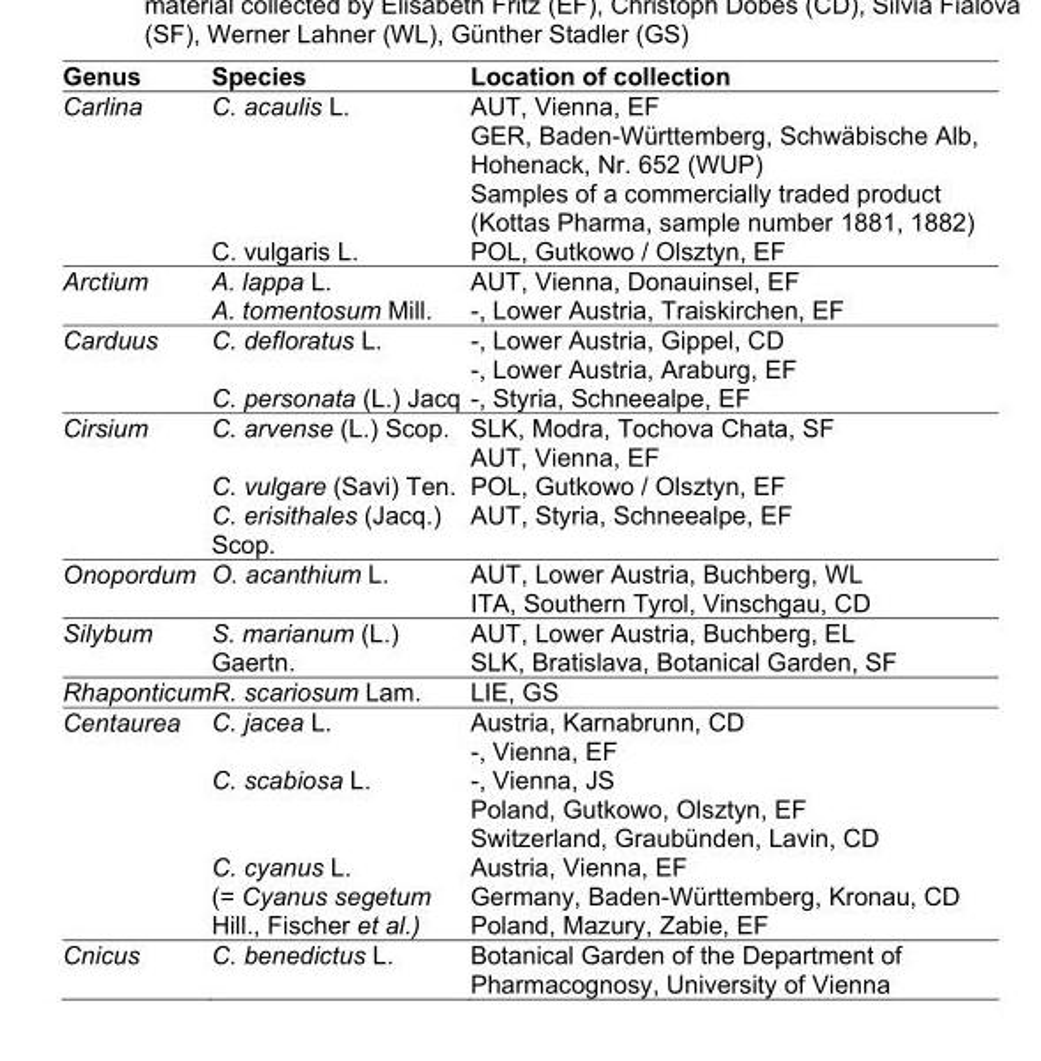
<table><thead><tr><td>Genus</td><td>Species</td><td>Location of collection</td></tr></thead><tbody><tr><td rowspan="2">Carlina</td><td>C. acaulis L.</td><td>AUT, Vienna, EF GER, Baden-Württemberg, Schwäbische Alb, Hohenack, Nr. 652 (WUP) Samples of a commercially traded product (Kottas Pharma, sample number 1881, 1882)</td></tr><tr><td>C. vulgaris L.</td><td>POL, Gutkowo / Olsztyn, EF</td></tr><tr><td rowspan="2">Arctium</td><td>A. lappa L.</td><td>AUT, Vienna, Donauinsel, EF</td></tr><tr><td>A. tomentosum Mill.</td><td>-, Lower Austria, Traiskirchen, EF</td></tr><tr><td rowspan="3">Carduus</td><td>C. defloratus L.</td><td>-, Lower Austria, Gippel, CD</td></tr><tr><td></td><td>-, Lower Austria, Araburg, EF</td></tr><tr><td>C. personata (L.) Jacq</td><td>-, Styria, Schneealpe, EF</td></tr><tr><td rowspan="4">Cirsium</td><td>C. arvense (L.) Scop.</td><td>SLK, Modra, Tochova Chata, SF</td></tr><tr><td></td><td>AUT, Vienna, EF</td></tr><tr><td>C. vulgare (Savi) Ten.</td><td>POL, Gutkowo / Olsztyn, EF</td></tr><tr><td>C. erisithales (Jacq.) Scop.</td><td>AUT, Styria, Schneealpe, EF</td></tr><tr><td rowspan="2">Onopordum</td><td>O. acanthium L.</td><td>AUT, Lower Austria, Buchberg, WL</td></tr><tr><td></td><td>ITA, Southern Tyrol, Vinschgau, CD</td></tr><tr><td rowspan="2">Silybum</td><td>S. marianum (L.)</td><td>AUT, Lower Austria, Buchberg, EL</td></tr><tr><td>Gaertn.</td><td>SLK, Bratislava, Botanical Garden, SF</td></tr><tr><td colspan="2">Rhaponticum R. scariosum Lam.</td><td>LIE, GS</td></tr><tr><td rowspan="8">Centaurea</td><td>C. jacea L.</td><td>Austria, Karnabrunn, CD</td></tr><tr><td></td><td>-, Vienna, EF</td></tr><tr><td>C. scabiosa L.</td><td>-, Vienna, JS</td></tr><tr><td></td><td>Poland, Gutkowo, Olsztyn, EF</td></tr><tr><td></td><td>Switzerland, Graubünden, Lavin, CD</td></tr><tr><td rowspan="3">C. cyanus L. (= Cyanus segetum Hill., Fischer et al.)</td><td>Austria, Vienna, EF</td></tr><tr><td>Germany, Baden-Württemberg, Kronau, CD</td></tr><tr><td>Poland, Mazury, Zabie, EF</td></tr><tr><td rowspan="2">Cnicus</td><td>C. benedictus L.</td><td>Botanical Garden of the Department of</td></tr><tr><td></td><td>Pharmacognosy, University of Vienna</td></tr></tbody></table>